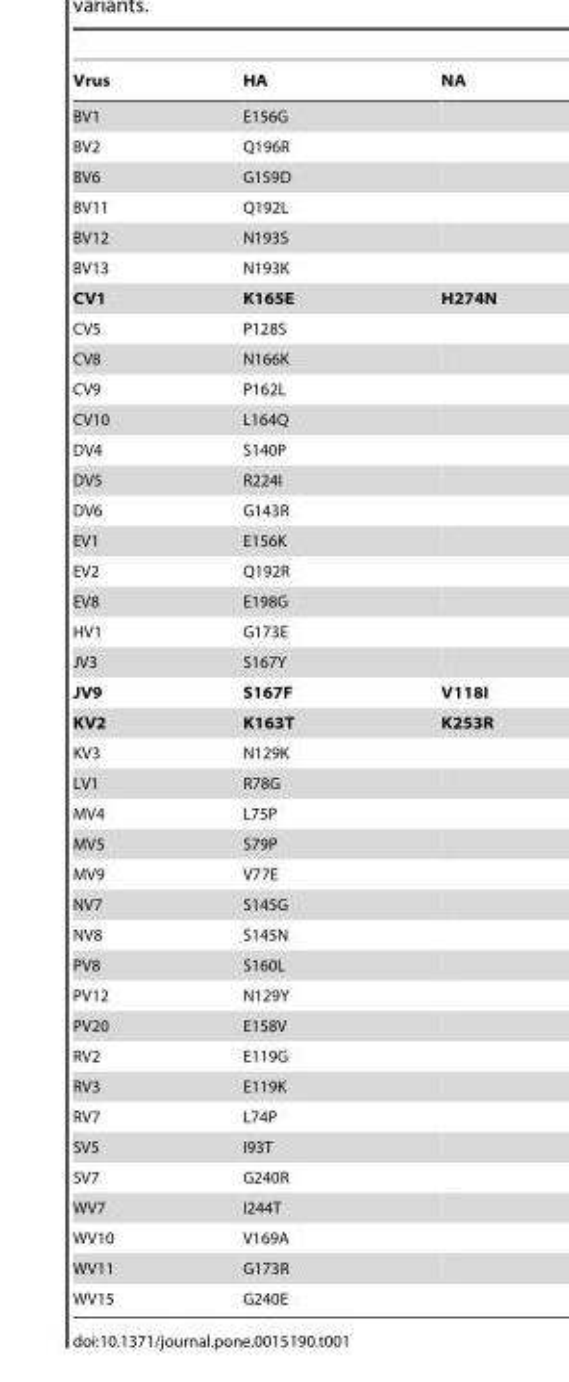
<table><thead><tr><td>Vrus</td><td>HA</td><td>NA</td></tr></thead><tbody><tr><td>BV1</td><td>E156G</td><td></td></tr><tr><td>BV2</td><td>Q196R</td><td></td></tr><tr><td>BV6</td><td>G159D</td><td></td></tr><tr><td>BV11</td><td>Q192L</td><td></td></tr><tr><td>BV12</td><td>N193S</td><td></td></tr><tr><td>BV13</td><td>N193K</td><td></td></tr><tr><td>CV1</td><td>K165E</td><td>H274N</td></tr><tr><td>CV5</td><td>P128S</td><td></td></tr><tr><td>CV8</td><td>N166K</td><td></td></tr><tr><td>CV9</td><td>P162L</td><td></td></tr><tr><td>CV10</td><td>L164Q</td><td></td></tr><tr><td>DV4</td><td>S140P</td><td></td></tr><tr><td>DV5</td><td>R224I</td><td></td></tr><tr><td>DV6</td><td>G143R</td><td></td></tr><tr><td>EV1</td><td>E156K</td><td></td></tr><tr><td>EV2</td><td>Q192R</td><td></td></tr><tr><td>EV8</td><td>E198G</td><td></td></tr><tr><td>HV1</td><td>G173E</td><td></td></tr><tr><td>JV3</td><td>S167Y</td><td></td></tr><tr><td>JV9</td><td>S167F</td><td>V118I</td></tr><tr><td>KV2</td><td>K163T</td><td>K253R</td></tr><tr><td>KV3</td><td>N129K</td><td></td></tr><tr><td>LV1</td><td>R78G</td><td></td></tr><tr><td>MV4</td><td>L75P</td><td></td></tr><tr><td>MV5</td><td>S79P</td><td></td></tr><tr><td>MV9</td><td>V77E</td><td></td></tr><tr><td>NV7</td><td>S145G</td><td></td></tr><tr><td>NV8</td><td>S145N</td><td></td></tr><tr><td>PV8</td><td>S160L</td><td></td></tr><tr><td>PV12</td><td>N129Y</td><td></td></tr><tr><td>PV20</td><td>E158V</td><td></td></tr><tr><td>RV2</td><td>E119G</td><td></td></tr><tr><td>RV3</td><td>E119K</td><td></td></tr><tr><td>RV7</td><td>L74P</td><td></td></tr><tr><td>SV5</td><td>I93T</td><td></td></tr><tr><td>SV7</td><td>G240R</td><td></td></tr><tr><td>WV7</td><td>I244T</td><td></td></tr><tr><td>WV10</td><td>V169A</td><td></td></tr><tr><td>WV11</td><td>G173R</td><td></td></tr><tr><td>WV15</td><td>G240E</td><td></td></tr></tbody></table>